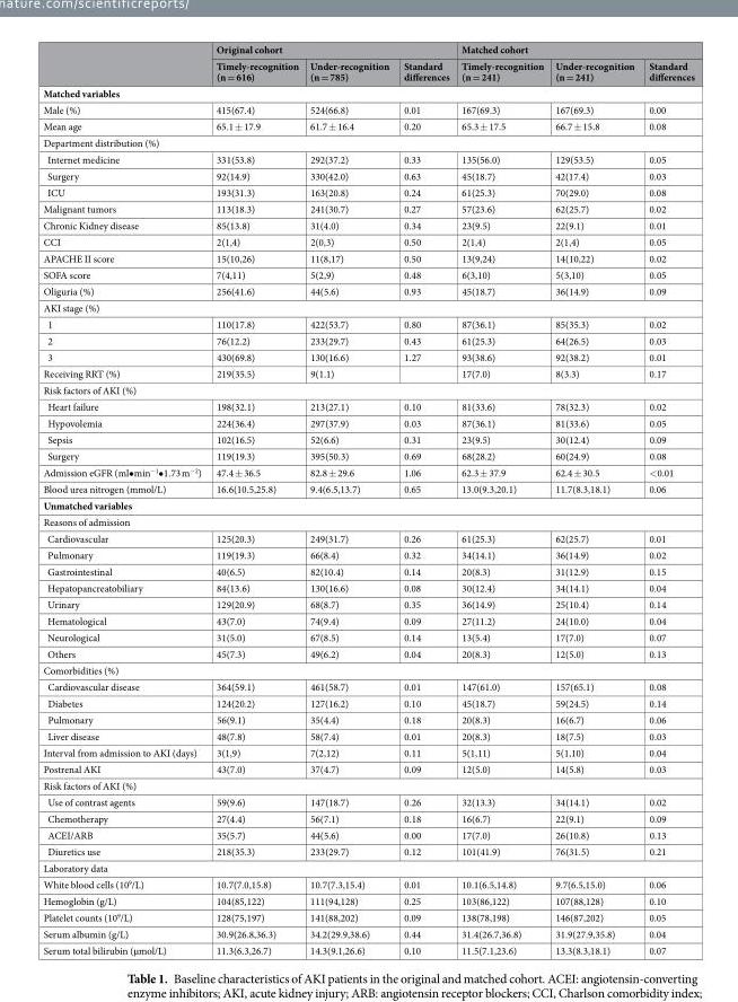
<table><thead><tr><td rowspan="2"></td><td colspan="3">Original cohort</td><td colspan="3">Matched cohort</td></tr><tr><td>Timely-recognition (n = 616)</td><td>Under-recognition (n = 785)</td><td>Standard differences</td><td>Timely-recognition (n = 241)</td><td>Under-recognition (n = 241)</td><td>Standard differences</td></tr></thead><tbody><tr><td colspan="7">Matched variables</td></tr><tr><td>Male (%)</td><td>415(67.4)</td><td>524(66.8)</td><td>0.01</td><td>167(69.3)</td><td>167(69.3)</td><td>0.00</td></tr><tr><td>Mean age</td><td>65.1 ± 17.9</td><td>61.7 ± 16.4</td><td>0.20</td><td>65.3 ± 17.5</td><td>66.7 ± 15.8</td><td>0.08</td></tr><tr><td colspan="7">Department distribution (%)</td></tr><tr><td>Internet medicine</td><td>331(53.8)</td><td>292(37.2)</td><td>0.33</td><td>135(56.0)</td><td>129(53.5)</td><td>0.05</td></tr><tr><td>Surgery</td><td>92(14.9)</td><td>330(42.0)</td><td>0.63</td><td>45(18.7)</td><td>42(17.4)</td><td>0.03</td></tr><tr><td>ICU</td><td>193(31.3)</td><td>163(20.8)</td><td>0.24</td><td>61(25.3)</td><td>70(29.0)</td><td>0.08</td></tr><tr><td>Malignant tumors</td><td>113(18.3)</td><td>241(30.7)</td><td>0.27</td><td>57(23.6)</td><td>62(25.7)</td><td>0.02</td></tr><tr><td>Chronic Kidney disease</td><td>85(13.8)</td><td>31(4.0)</td><td>0.34</td><td>23(9.5)</td><td>22(9.1)</td><td>0.01</td></tr><tr><td>CCI</td><td>2(1,4)</td><td>2(0,3)</td><td>0.50</td><td>2(1,4)</td><td>2(1,4)</td><td>0.05</td></tr><tr><td>APACHE II score</td><td>15(10,26)</td><td>11(8,17)</td><td>0.50</td><td>13(9,24)</td><td>14(10,22)</td><td>0.02</td></tr><tr><td>SOFA score</td><td>7(4,11)</td><td>5(2,9)</td><td>0.48</td><td>6(3,10)</td><td>5(3,10)</td><td>0.05</td></tr><tr><td>Oliguria (%)</td><td>256(41.6)</td><td>44(5.6)</td><td>0.93</td><td>45(18.7)</td><td>36(14.9)</td><td>0.09</td></tr><tr><td colspan="7">AKI stage (%)</td></tr><tr><td>1</td><td>110(17.8)</td><td>422(53.7)</td><td>0.80</td><td>87(36.1)</td><td>85(35.3)</td><td>0.02</td></tr><tr><td>2</td><td>76(12.2)</td><td>233(29.7)</td><td>0.43</td><td>61(25.3)</td><td>64(26.5)</td><td>0.03</td></tr><tr><td>3</td><td>430(69.8)</td><td>130(16.6)</td><td>1.27</td><td>93(38.6)</td><td>92(38.2)</td><td>0.01</td></tr><tr><td>Receiving RRT (%)</td><td>219(35.5)</td><td>9(1.1)</td><td></td><td>17(7.0)</td><td>8(3.3)</td><td>0.17</td></tr><tr><td colspan="7">Risk factors of AKI (%)</td></tr><tr><td>Heart failure</td><td>198(32.1)</td><td>213(27.1)</td><td>0.10</td><td>81(33.6)</td><td>78(32.3)</td><td>0.02</td></tr><tr><td>Hypovolemia</td><td>224(36.4)</td><td>297(37.9)</td><td>0.03</td><td>87(36.1)</td><td>81(33.6)</td><td>0.05</td></tr><tr><td>Sepsis</td><td>102(16.5)</td><td>52(6.6)</td><td>0.31</td><td>23(9.5)</td><td>30(12.4)</td><td>0.09</td></tr><tr><td>Surgery</td><td>119(19.3)</td><td>395(50.3)</td><td>0.69</td><td>68(28.2)</td><td>60(24.9)</td><td>0.08</td></tr><tr><td>Admission eGFR (ml•min<sup>−1</sup>•1.73 m<sup>−2</sup>)</td><td>47.4 ± 36.5</td><td>82.8 ± 29.6</td><td>1.06</td><td>62.3 ± 37.9</td><td>62.4 ± 30.5</td><td>&lt;0.01</td></tr><tr><td>Blood urea nitrogen (mmol/L)</td><td>16.6(10.5,25.8)</td><td>9.4(6.5,13.7)</td><td>0.65</td><td>13.0(9.3,20.1)</td><td>11.7(8.3,18.1)</td><td>0.06</td></tr><tr><td colspan="7">Unmatched variables</td></tr><tr><td colspan="7">Reasons of admission</td></tr><tr><td>Cardiovascular</td><td>125(20.3)</td><td>249(31.7)</td><td>0.26</td><td>61(25.3)</td><td>62(25.7)</td><td>0.01</td></tr><tr><td>Pulmonary</td><td>119(19.3)</td><td>66(8.4)</td><td>0.32</td><td>34(14.1)</td><td>36(14.9)</td><td>0.02</td></tr><tr><td>Gastrointestinal</td><td>40(6.5)</td><td>82(10.4)</td><td>0.14</td><td>20(8.3)</td><td>31(12.9)</td><td>0.15</td></tr><tr><td>Hepatopancreatobiliary</td><td>84(13.6)</td><td>130(16.6)</td><td>0.08</td><td>30(12.4)</td><td>34(14.1)</td><td>0.04</td></tr><tr><td>Urinary</td><td>129(20.9)</td><td>68(8.7)</td><td>0.35</td><td>36(14.9)</td><td>25(10.4)</td><td>0.14</td></tr><tr><td>Hematological</td><td>43(7.0)</td><td>74(9.4)</td><td>0.09</td><td>27(11.2)</td><td>24(10.0)</td><td>0.04</td></tr><tr><td>Neurological</td><td>31(5.0)</td><td>67(8.5)</td><td>0.14</td><td>13(5.4)</td><td>17(7.0)</td><td>0.07</td></tr><tr><td>Others</td><td>45(7.3)</td><td>49(6.2)</td><td>0.04</td><td>20(8.3)</td><td>12(5.0)</td><td>0.13</td></tr><tr><td colspan="7">Comorbidities (%)</td></tr><tr><td>Cardiovascular disease</td><td>364(59.1)</td><td>461(58.7)</td><td>0.01</td><td>147(61.0)</td><td>157(65.1)</td><td>0.08</td></tr><tr><td>Diabetes</td><td>124(20.2)</td><td>127(16.2)</td><td>0.10</td><td>45(18.7)</td><td>59(24.5)</td><td>0.14</td></tr><tr><td>Pulmonary</td><td>56(9.1)</td><td>35(4.4)</td><td>0.18</td><td>20(8.3)</td><td>16(6.7)</td><td>0.06</td></tr><tr><td>Liver disease</td><td>48(7.8)</td><td>58(7.4)</td><td>0.01</td><td>20(8.3)</td><td>18(7.5)</td><td>0.03</td></tr><tr><td>Interval from admission to AKI (days)</td><td>3(1,9)</td><td>7(2,12)</td><td>0.11</td><td>5(1,11)</td><td>5(1,10)</td><td>0.04</td></tr><tr><td>Postrenal AKI</td><td>43(7.0)</td><td>37(4.7)</td><td>0.09</td><td>12(5.0)</td><td>14(5.8)</td><td>0.03</td></tr><tr><td colspan="7">Risk factors of AKI (%)</td></tr><tr><td>Use of contrast agents</td><td>59(9.6)</td><td>147(18.7)</td><td>0.26</td><td>32(13.3)</td><td>34(14.1)</td><td>0.02</td></tr><tr><td>Chemotherapy</td><td>27(4.4)</td><td>56(7.1)</td><td>0.18</td><td>16(6.7)</td><td>22(9.1)</td><td>0.09</td></tr><tr><td>ACEI/ARB</td><td>35(5.7)</td><td>44(5.6)</td><td>0.00</td><td>17(7.0)</td><td>26(10.8)</td><td>0.13</td></tr><tr><td>Diuretics use</td><td>218(35.3)</td><td>233(29.7)</td><td>0.12</td><td>101(41.9)</td><td>76(31.5)</td><td>0.21</td></tr><tr><td colspan="7">Laboratory data</td></tr><tr><td>White blood cells (10<sup>9</sup>/L)</td><td>10.7(7.0,15.8)</td><td>10.7(7.3,15.4)</td><td>0.01</td><td>10.1(6.5,14.8)</td><td>9.7(6.5,15.0)</td><td>0.06</td></tr><tr><td>Hemoglobin (g/L)</td><td>104(85,122)</td><td>111(94,128)</td><td>0.25</td><td>103(86,122)</td><td>107(88,128)</td><td>0.10</td></tr><tr><td>Platelet counts (10<sup>9</sup>/L)</td><td>128(75,197)</td><td>141(88,202)</td><td>0.09</td><td>138(78,198)</td><td>146(87,202)</td><td>0.05</td></tr><tr><td>Serum albumin (g/L)</td><td>30.9(26.8,36.3)</td><td>34.2(29.9,38.6)</td><td>0.44</td><td>31.4(26.7,36.8)</td><td>31.9(27.9,35.8)</td><td>0.04</td></tr><tr><td>Serum total bilirubin (µmol/L)</td><td>11.3(6.3,26.7)</td><td>14.3(9.1,26.6)</td><td>0.10</td><td>11.5(7.1,23.6)</td><td>13.3(8.3,18.1)</td><td>0.07</td></tr></tbody></table>